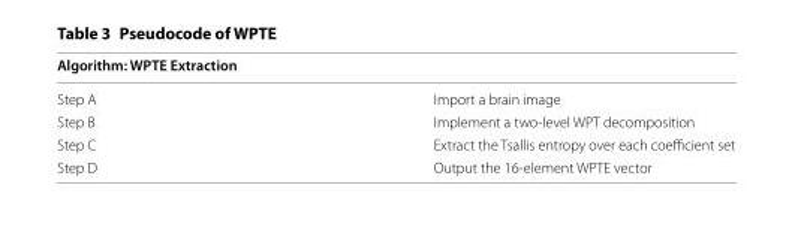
<table><thead><tr><td colspan="2">Algorithm: WPTE Extraction</td></tr><tr><td>Step A</td><td>Import a brain image</td></tr></thead><tbody><tr><td>Step B</td><td>Implement a two‑level WPT decomposition</td></tr><tr><td>Step C</td><td>Extract the Tsallis entropy over each coefficient set</td></tr><tr><td>Step D</td><td>Output the 16‑element WPTE vector</td></tr></tbody></table>